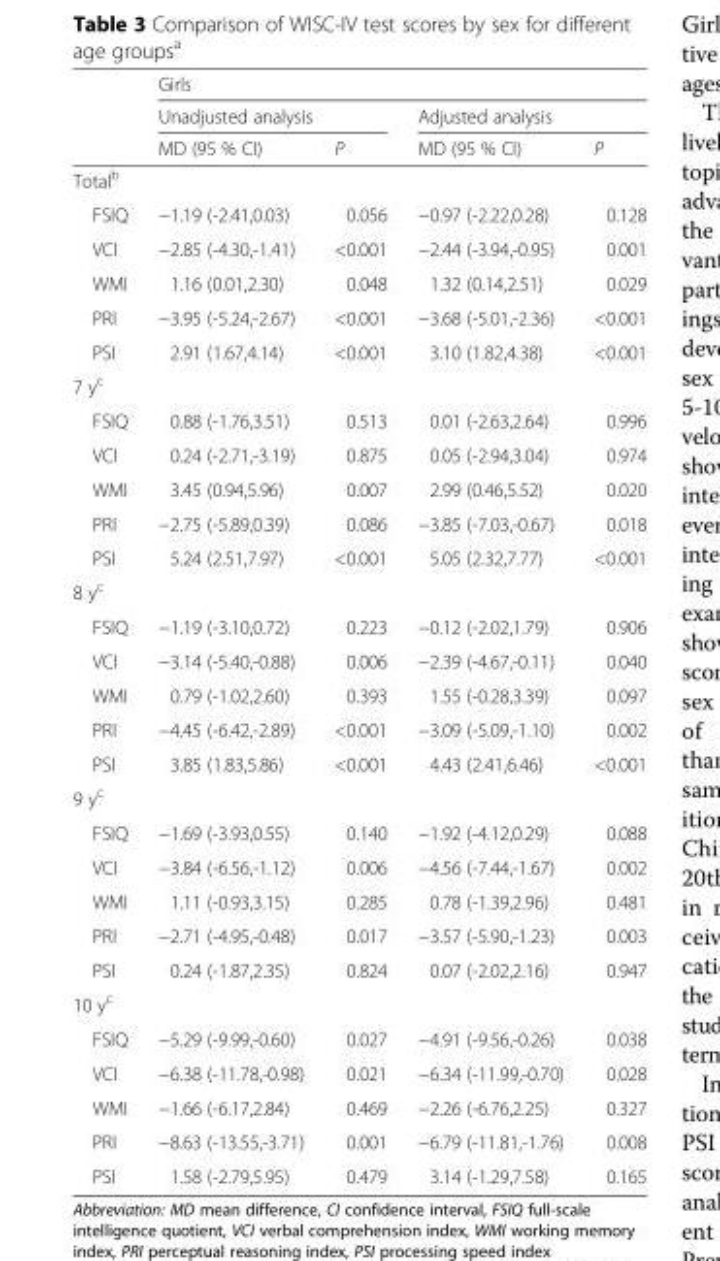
<table><thead><tr><td rowspan="3"></td><td colspan="4">Girls</td></tr><tr><td colspan="2">Unadjusted analysis</td><td colspan="2">Adjusted analysis</td></tr><tr><td>MD (95 % CI)</td><td>P</td><td>MD (95 % CI)</td><td>P</td></tr></thead><tbody><tr><td colspan="5">Total<sup>b</sup></td></tr><tr><td>FSIQ</td><td>−1.19 (-2.41,0.03)</td><td>0.056</td><td>−0.97 (-2.22,0.28)</td><td>0.128</td></tr><tr><td>VCI</td><td>−2.85 (-4.30,-1.41)</td><td>&lt;0.001</td><td>−2.44 (-3.94,-0.95)</td><td>0.001</td></tr><tr><td>WMI</td><td>1.16 (0.01,2.30)</td><td>0.048</td><td>1.32 (0.14,2.51)</td><td>0.029</td></tr><tr><td>PRI</td><td>−3.95 (-5.24,-2.67)</td><td>&lt;0.001</td><td>−3.68 (-5.01,-2.36)</td><td>&lt;0.001</td></tr><tr><td>PSI</td><td>2.91 (1.67,4.14)</td><td>&lt;0.001</td><td>3.10 (1.82,4.38)</td><td>&lt;0.001</td></tr><tr><td colspan="5">7 y<sup>c</sup></td></tr><tr><td>FSIQ</td><td>0.88 (-1.76,3.51)</td><td>0.513</td><td>0.01 (-2.63,2.64)</td><td>0.996</td></tr><tr><td>VCI</td><td>0.24 (-2.71,-3.19)</td><td>0.875</td><td>0.05 (-2.94,3.04)</td><td>0.974</td></tr><tr><td>WMI</td><td>3.45 (0.94,5.96)</td><td>0.007</td><td>2.99 (0.46,5.52)</td><td>0.020</td></tr><tr><td>PRI</td><td>−2.75 (-5.89,0.39)</td><td>0.086</td><td>−3.85 (-7.03,-0.67)</td><td>0.018</td></tr><tr><td>PSI</td><td>5.24 (2.51,7.97)</td><td>&lt;0.001</td><td>5.05 (2.32,7.77)</td><td>&lt;0.001</td></tr><tr><td colspan="5">8 y<sup>c</sup></td></tr><tr><td>FSIQ</td><td>−1.19 (-3.10,0.72)</td><td>0.223</td><td>−0.12 (-2.02,1.79)</td><td>0.906</td></tr><tr><td>VCI</td><td>−3.14 (-5.40,-0.88)</td><td>0.006</td><td>−2.39 (-4.67,-0.11)</td><td>0.040</td></tr><tr><td>WMI</td><td>0.79 (-1.02,2.60)</td><td>0.393</td><td>1.55 (-0.28,3.39)</td><td>0.097</td></tr><tr><td>PRI</td><td>−4.45 (-6.42,-2.89)</td><td>&lt;0.001</td><td>−3.09 (-5.09,-1.10)</td><td>0.002</td></tr><tr><td>PSI</td><td>3.85 (1.83,5.86)</td><td>&lt;0.001</td><td>4.43 (2.41,6.46)</td><td>&lt;0.001</td></tr><tr><td colspan="5">9 y<sup>c</sup></td></tr><tr><td>FSIQ</td><td>−1.69 (-3.93,0.55)</td><td>0.140</td><td>−1.92 (-4.12,0.29)</td><td>0.088</td></tr><tr><td>VCI</td><td>−3.84 (-6.56,-1.12)</td><td>0.006</td><td>−4.56 (-7.44,-1.67)</td><td>0.002</td></tr><tr><td>WMI</td><td>1.11 (-0.93,3.15)</td><td>0.285</td><td>0.78 (-1.39,2.96)</td><td>0.481</td></tr><tr><td>PRI</td><td>−2.71 (-4.95,-0.48)</td><td>0.017</td><td>−3.57 (-5.90,-1.23)</td><td>0.003</td></tr><tr><td>PSI</td><td>0.24 (-1.87,2.35)</td><td>0.824</td><td>0.07 (-2.02,2.16)</td><td>0.947</td></tr><tr><td colspan="5">10 y<sup>c</sup></td></tr><tr><td>FSIQ</td><td>−5.29 (-9.99,-0.60)</td><td>0.027</td><td>−4.91 (-9.56,-0.26)</td><td>0.038</td></tr><tr><td>VCI</td><td>−6.38 (-11.78,-0.98)</td><td>0.021</td><td>−6.34 (-11.99,-0.70)</td><td>0.028</td></tr><tr><td>WMI</td><td>−1.66 (-6.17,2.84)</td><td>0.469</td><td>−2.26 (-6.76,2.25)</td><td>0.327</td></tr><tr><td>PRI</td><td>−8.63 (-13.55,-3.71)</td><td>0.001</td><td>−6.79 (-11.81,-1.76)</td><td>0.008</td></tr><tr><td>PSI</td><td>1.58 (-2.79,5.95)</td><td>0.479</td><td>3.14 (-1.29,7.58)</td><td>0.165</td></tr></tbody></table>